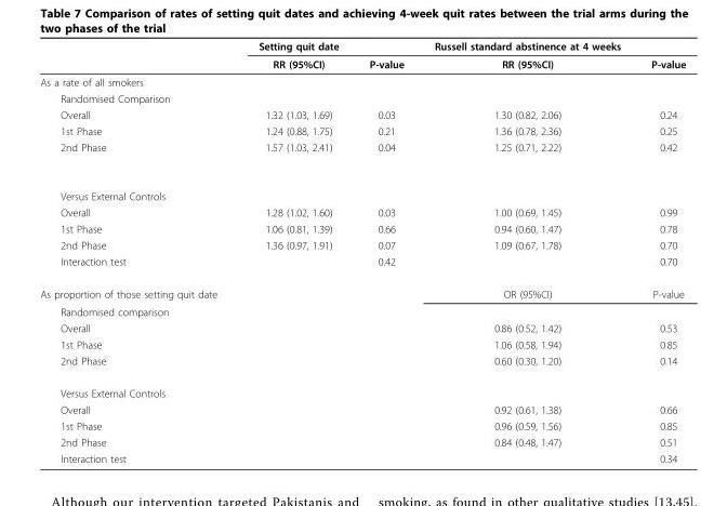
<table><thead><tr><td rowspan="2"></td><td rowspan="2">Setting quit date RR (95%CI)</td><td rowspan="2">P-value</td><td rowspan="2">Russell standard abstinence at 4 weeks RR (95%CI)</td><td rowspan="2">P-value</td></tr><tr></tr></thead><tbody><tr><td colspan="5">As a rate of all smokers</td></tr><tr><td colspan="5">Randomised Comparison</td></tr><tr><td>Overall</td><td>1.32 (1.03, 1.69)</td><td>0.03</td><td>1.30 (0.82, 2.06)</td><td>0.24</td></tr><tr><td>1st Phase</td><td>1.24 (0.88, 1.75)</td><td>0.21</td><td>1.36 (0.78, 2.36)</td><td>0.25</td></tr><tr><td>2nd Phase</td><td>1.57 (1.03, 2.41)</td><td>0.04</td><td>1.25 (0.71, 2.22)</td><td>0.42</td></tr><tr><td colspan="5">Versus External Controls</td></tr><tr><td>Overall</td><td>1.28 (1.02, 1.60)</td><td>0.03</td><td>1.00 (0.69, 1.45)</td><td>0.99</td></tr><tr><td>1st Phase</td><td>1.06 (0.81, 1.39)</td><td>0.66</td><td>0.94 (0.60, 1.47)</td><td>0.78</td></tr><tr><td>2nd Phase</td><td>1.36 (0.97, 1.91)</td><td>0.07</td><td>1.09 (0.67, 1.78)</td><td>0.70</td></tr><tr><td>Interaction test</td><td></td><td>0.42</td><td></td><td>0.70</td></tr><tr><td>As proportion of those setting quit date</td><td></td><td></td><td>OR (95%CI)</td><td>P-value</td></tr><tr><td colspan="5">Randomised comparison</td></tr><tr><td>Overall</td><td></td><td></td><td>0.86 (0.52, 1.42)</td><td>0.53</td></tr><tr><td>1st Phase</td><td></td><td></td><td>1.06 (0.58, 1.94)</td><td>0.85</td></tr><tr><td>2nd Phase</td><td></td><td></td><td>0.60 (0.30, 1.20)</td><td>0.14</td></tr><tr><td colspan="5">Versus External Controls</td></tr><tr><td>Overall</td><td></td><td></td><td>0.92 (0.61, 1.38)</td><td>0.66</td></tr><tr><td>1st Phase</td><td></td><td></td><td>0.96 (0.59, 1.56)</td><td>0.85</td></tr><tr><td>2nd Phase</td><td></td><td></td><td>0.84 (0.48, 1.47)</td><td>0.51</td></tr><tr><td>Interaction test</td><td></td><td></td><td></td><td>0.34</td></tr></tbody></table>